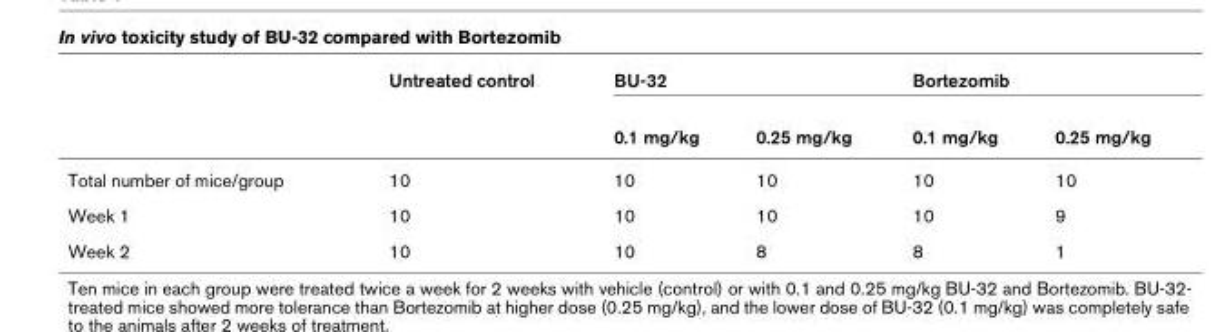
<table><thead><tr><td rowspan="2"></td><td rowspan="2">Untreated control</td><td colspan="2">BU-32</td><td colspan="2">Bortezomib</td></tr><tr><td>0.1 mg/kg</td><td>0.25 mg/kg</td><td>0.1 mg/kg</td><td>0.25 mg/kg</td></tr></thead><tbody><tr><td>Total number of mice/group</td><td>10</td><td>10</td><td>10</td><td>10</td><td>10</td></tr><tr><td>Week 1</td><td>10</td><td>10</td><td>10</td><td>10</td><td>9</td></tr><tr><td>Week 2</td><td>10</td><td>10</td><td>8</td><td>8</td><td>1</td></tr></tbody></table>